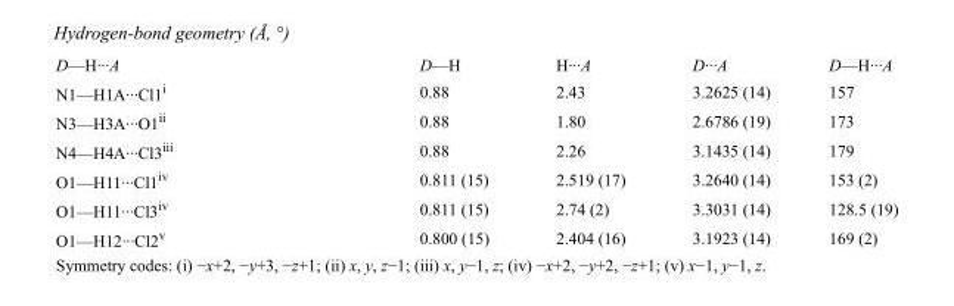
<table><tbody><tr><td>D—H···A</td><td>D—H</td><td>H···A</td><td>D···A</td><td>D—H···A</td></tr><tr><td>N1—H1A···Cl1<sup>i</sup></td><td>0.88</td><td>2.43</td><td>3.2625 (14)</td><td>157</td></tr><tr><td>N3—H3A···O1<sup>ii</sup></td><td>0.88</td><td>1.80</td><td>2.6786 (19)</td><td>173</td></tr><tr><td>N4—H4A···Cl3<sup>iii</sup></td><td>0.88</td><td>2.26</td><td>3.1435 (14)</td><td>179</td></tr><tr><td>O1—H11···Cl1<sup>iv</sup></td><td>0.811 (15)</td><td>2.519 (17)</td><td>3.2640 (14)</td><td>153 (2)</td></tr><tr><td>O1—H11···Cl3<sup>iv</sup></td><td>0.811 (15)</td><td>2.74 (2)</td><td>3.3031 (14)</td><td>128.5 (19)</td></tr><tr><td>O1—H12···Cl2<sup>v</sup></td><td>0.800 (15)</td><td>2.404 (16)</td><td>3.1923 (14)</td><td>169 (2)</td></tr></tbody></table>